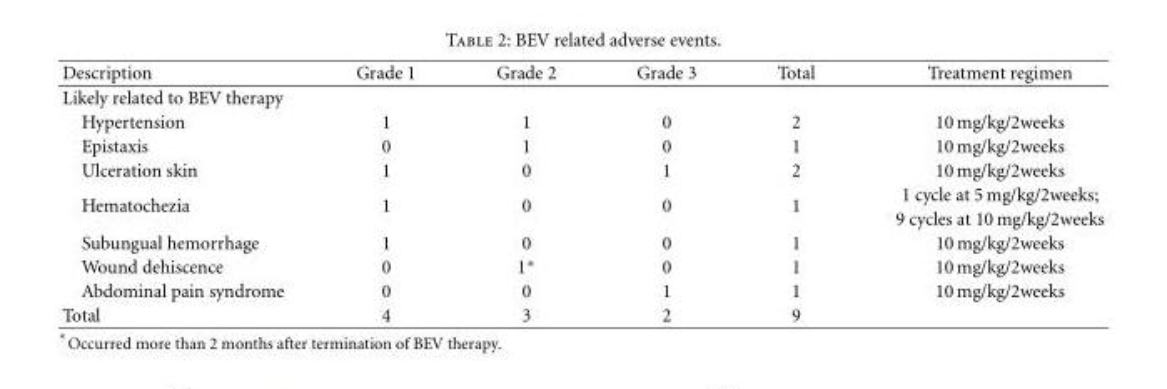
<table><thead><tr><td>Description</td><td>Grade 1</td><td>Grade 2</td><td>Grade 3</td><td>Total</td><td>Treatment regimen</td></tr></thead><tbody><tr><td colspan="6">Likely related to BEV therapy</td></tr><tr><td>Hypertension</td><td>1</td><td>1</td><td>0</td><td>2</td><td>10 mg/kg/2weeks</td></tr><tr><td>Epistaxis</td><td>0</td><td>1</td><td>0</td><td>1</td><td>10 mg/kg/2weeks</td></tr><tr><td>Ulceration skin</td><td>1</td><td>0</td><td>1</td><td>2</td><td>10 mg/kg/2weeks</td></tr><tr><td rowspan="2">Hematochezia</td><td rowspan="2">1</td><td rowspan="2">0</td><td rowspan="2">0</td><td rowspan="2">1</td><td>1 cycle at 5 mg/kg/2weeks;</td></tr><tr><td>9 cycles at 10 mg/kg/2weeks</td></tr><tr><td>Subungual hemorrhage</td><td>1</td><td>0</td><td>0</td><td>1</td><td>10 mg/kg/2weeks</td></tr><tr><td>Wound dehiscence</td><td>0</td><td>1∗</td><td>0</td><td>1</td><td>10 mg/kg/2weeks</td></tr><tr><td>Abdominal pain syndrome</td><td>0</td><td>0</td><td>1</td><td>1</td><td>10 mg/kg/2weeks</td></tr><tr><td>Total</td><td>4</td><td>3</td><td>2</td><td>9</td><td></td></tr></tbody></table>